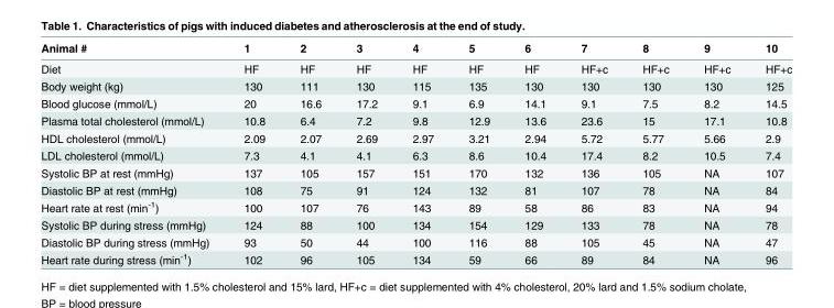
<table><thead><tr><td>Animal #</td><td>1</td><td>2</td><td>3</td><td>4</td><td>5</td><td>6</td><td>7</td><td>8</td><td>9</td><td>10</td></tr></thead><tbody><tr><td>Diet</td><td>HF</td><td>HF</td><td>HF</td><td>HF</td><td>HF</td><td>HF</td><td>HF+c</td><td>HF+c</td><td>HF+c</td><td>HF+c</td></tr><tr><td>Body weight (kg)</td><td>130</td><td>111</td><td>130</td><td>115</td><td>135</td><td>130</td><td>130</td><td>130</td><td>130</td><td>125</td></tr><tr><td>Blood glucose (mmol/L)</td><td>20</td><td>16.6</td><td>17.2</td><td>9.1</td><td>6.9</td><td>14.1</td><td>9.1</td><td>7.5</td><td>8.2</td><td>14.5</td></tr><tr><td>Plasma total cholesterol (mmol/L)</td><td>10.8</td><td>6.4</td><td>7.2</td><td>9.8</td><td>12.9</td><td>13.6</td><td>23.6</td><td>15</td><td>17.1</td><td>10.8</td></tr><tr><td>HDL cholesterol (mmol/L)</td><td>2.09</td><td>2.07</td><td>2.69</td><td>2.97</td><td>3.21</td><td>2.94</td><td>5.72</td><td>5.77</td><td>5.66</td><td>2.9</td></tr><tr><td>LDL cholesterol (mmol/L)</td><td>7.3</td><td>4.1</td><td>4.1</td><td>6.3</td><td>8.6</td><td>10.4</td><td>17.4</td><td>8.2</td><td>10.5</td><td>7.4</td></tr><tr><td>Systolic BP at rest (mmHg)</td><td>137</td><td>105</td><td>157</td><td>151</td><td>170</td><td>132</td><td>136</td><td>105</td><td>NA</td><td>107</td></tr><tr><td>Diastolic BP at rest (mmHg)</td><td>108</td><td>75</td><td>91</td><td>124</td><td>132</td><td>81</td><td>107</td><td>78</td><td>NA</td><td>84</td></tr><tr><td>Heart rate at rest (min<sup>-1</sup>)</td><td>100</td><td>107</td><td>76</td><td>143</td><td>89</td><td>58</td><td>86</td><td>83</td><td>NA</td><td>94</td></tr><tr><td>Systolic BP during stress (mmHg)</td><td>124</td><td>88</td><td>100</td><td>134</td><td>154</td><td>129</td><td>133</td><td>78</td><td>NA</td><td>78</td></tr><tr><td>Diastolic BP during stress (mmHg)</td><td>93</td><td>50</td><td>44</td><td>100</td><td>116</td><td>88</td><td>105</td><td>45</td><td>NA</td><td>47</td></tr><tr><td>Heart rate during stress (min<sup>-1</sup>)</td><td>102</td><td>96</td><td>105</td><td>134</td><td>59</td><td>66</td><td>89</td><td>84</td><td>NA</td><td>96</td></tr></tbody></table>